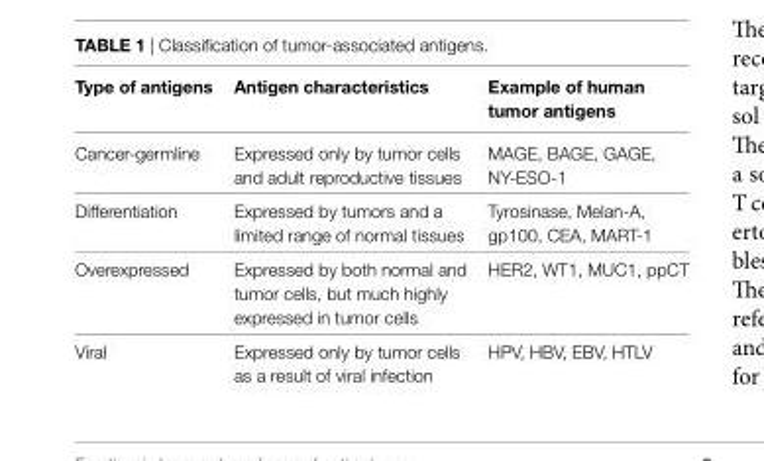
<table><thead><tr><td>Type of antigens</td><td>Antigen characteristics</td><td>example of human tumor antigens</td></tr></thead><tbody><tr><td>Cancer-germline</td><td>Expressed only by tumor cells and adult reproductive tissues</td><td>MAGE, BAGE, GAGE, NY-ESO-1</td></tr><tr><td>Differentiation</td><td>Expressed by tumors and a limited range of normal tissues</td><td>Tyrosinase, Melan-A, gp100, CEA, MART-1</td></tr><tr><td>Overexpressed</td><td>Expressed by both normal and tumor cells, but much highly expressed in tumor cells</td><td>HER2, WT1, MUC1, ppCT</td></tr><tr><td>Viral</td><td>Expressed only by tumor cells as a result of viral infection</td><td>HPV, HBV, EBV, HTLV</td></tr></tbody></table>